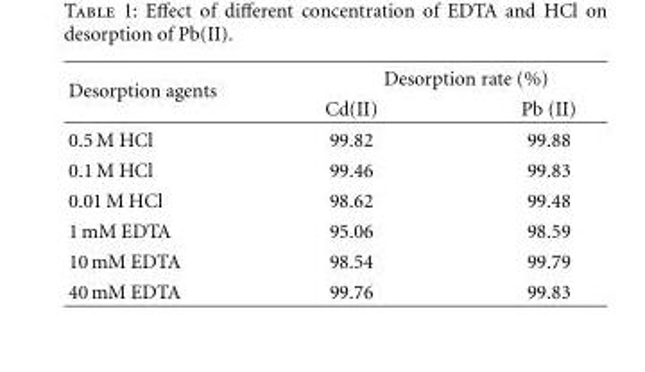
<table><thead><tr><td rowspan="2">Desorption agents</td><td colspan="2">Desorption rate (%)</td></tr><tr><td>Cd(II)</td><td>Pb (II)</td></tr></thead><tbody><tr><td>0.5 M HCl</td><td>99.82</td><td>99.88</td></tr><tr><td>0.1 M HCl</td><td>99.46</td><td>99.83</td></tr><tr><td>0.01 M HCl</td><td>98.62</td><td>99.48</td></tr><tr><td>1 mM EDTA</td><td>95.06</td><td>98.59</td></tr><tr><td>10 mM EDTA</td><td>98.54</td><td>99.79</td></tr><tr><td>40 mM EDTA</td><td>99.76</td><td>99.83</td></tr></tbody></table>